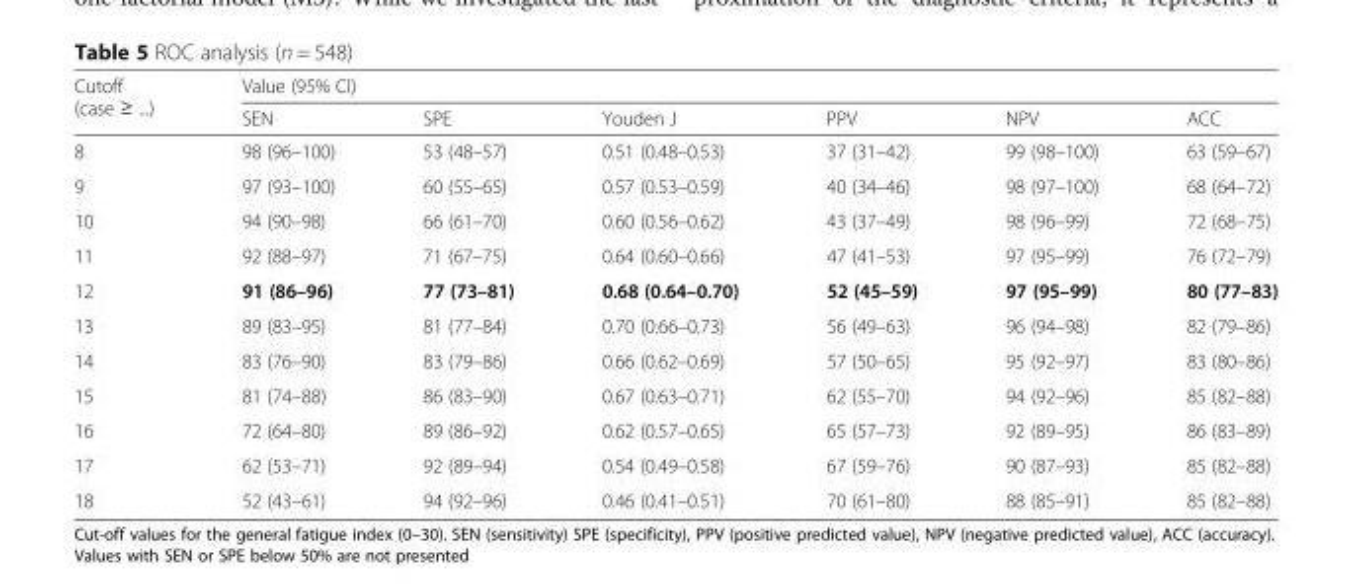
<table><thead><tr><td rowspan="2">Cutoff (case ≥ ...)</td><td colspan="6">Value (95% CI)</td></tr><tr><td>SEN</td><td>SPE</td><td>Youden J</td><td>PPV</td><td>NPV</td><td>ACC</td></tr></thead><tbody><tr><td>8</td><td>98 (96–100)</td><td>53 (48–57)</td><td>0.51 (0.48–0.53)</td><td>37 (31–42)</td><td>99 (98–100)</td><td>63 (59–67)</td></tr><tr><td>9</td><td>97 (93–100)</td><td>60 (55–65)</td><td>0.57 (0.53–0.59)</td><td>40 (34–46)</td><td>98 (97–100)</td><td>68 (64–72)</td></tr><tr><td>10</td><td>94 (90–98)</td><td>66 (61–70)</td><td>0.60 (0.56–0.62)</td><td>43 (37–49)</td><td>98 (96–99)</td><td>72 (68–75)</td></tr><tr><td>11</td><td>92 (88–97)</td><td>71 (67–75)</td><td>0.64 (0.60–0.66)</td><td>47 (41–53)</td><td>97 (95–99)</td><td>76 (72–79)</td></tr><tr><td>12</td><td>91 (86–96)</td><td>77 (73–81)</td><td>0.68 (0.64–0.70)</td><td>52 (45–59)</td><td>97 (95–99)</td><td>80 (77–83)</td></tr><tr><td>13</td><td>89 (83–95)</td><td>81 (77–84)</td><td>0.70 (0.66–0.73)</td><td>56 (49–63)</td><td>96 (94–98)</td><td>82 (79–86)</td></tr><tr><td>14</td><td>83 (76–90)</td><td>83 (79–86)</td><td>0.66 (0.62–0.69)</td><td>57 (50–65)</td><td>95 (92–97)</td><td>83 (80–86)</td></tr><tr><td>15</td><td>81 (74–88)</td><td>86 (83–90)</td><td>0.67 (0.63–0.71)</td><td>62 (55–70)</td><td>94 (92–96)</td><td>85 (82–88)</td></tr><tr><td>16</td><td>72 (64–80)</td><td>89 (86–92)</td><td>0.62 (0.57–0.65)</td><td>65 (57–73)</td><td>92 (89–95)</td><td>86 (83–89)</td></tr><tr><td>17</td><td>62 (53–71)</td><td>92 (89–94)</td><td>0.54 (0.49–0.58)</td><td>67 (59–76)</td><td>90 (87–93)</td><td>85 (82–88)</td></tr><tr><td>18</td><td>52 (43–61)</td><td>94 (92–96)</td><td>0.46 (0.41–0.51)</td><td>70 (61–80)</td><td>88 (85–91)</td><td>85 (82–88)</td></tr></tbody></table>